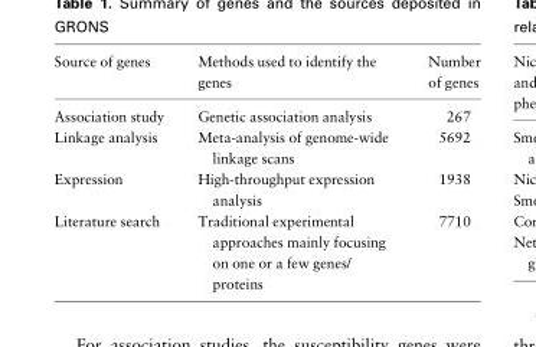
<table><thead><tr><td>Source of genes</td><td>Methods used to identify the genes</td><td>Number of genes</td></tr></thead><tbody><tr><td>Association study</td><td>Genetic association analysis</td><td>267</td></tr><tr><td>Linkage analysis</td><td>Meta-analysis of genome-wide linkage scans</td><td>5692</td></tr><tr><td>Expression</td><td>High-throughput expression analysis</td><td>1938</td></tr><tr><td>Literature search</td><td>Traditional experimental approaches mainly focusing on one or a few genes/ proteins</td><td>7710</td></tr></tbody></table>